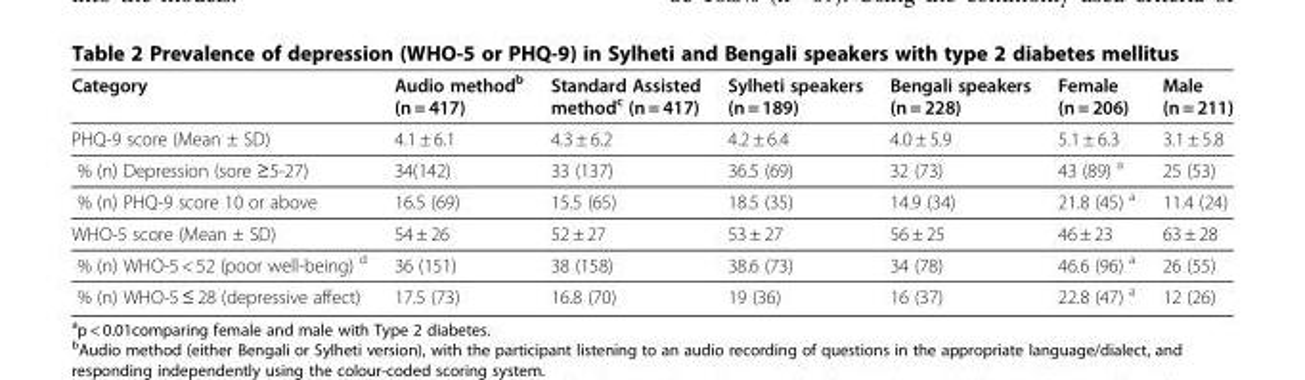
<table><thead><tr><td>Category</td><td>Audio method<sup>b</sup> (n = 417)</td><td>Standard Assisted method<sup>c</sup> (n = 417)</td><td>Sylheti speakers (n = 189)</td><td>Bengali speakers (n = 228)</td><td>Female (n = 206)</td><td>Male (n = 211)</td></tr></thead><tbody><tr><td>PHQ-9 score (Mean ± SD)</td><td>4.1 ± 6.1</td><td>4.3 ± 6.2</td><td>4.2 ± 6.4</td><td>4.0 ± 5.9</td><td>5.1 ± 6.3</td><td>3.1 ± 5.8</td></tr><tr><td>% (n) Depression (sore ≥5-27)</td><td>34(142)</td><td>33 (137)</td><td>36.5 (69)</td><td>32 (73)</td><td>43 (89) <sup>a</sup></td><td>25 (53)</td></tr><tr><td>% (n) PHQ-9 score 10 or above</td><td>16.5 (69)</td><td>15.5 (65)</td><td>18.5 (35)</td><td>14.9 (34)</td><td>21.8 (45) <sup>a</sup></td><td>11.4 (24)</td></tr><tr><td>WHO-5 score (Mean ± SD)</td><td>54 ± 26</td><td>52 ± 27</td><td>53 ± 27</td><td>56 ± 25</td><td>46 ± 23</td><td>63 ± 28</td></tr><tr><td>% (n) WHO-5 &lt; 52 (poor well-being) <sup>d</sup></td><td>36 (151)</td><td>38 (158)</td><td>38.6 (73)</td><td>34 (78)</td><td>46.6 (96) <sup>a</sup></td><td>26 (55)</td></tr><tr><td>% (n) WHO-5 ≤ 28 (depressive affect)</td><td>17.5 (73)</td><td>16.8 (70)</td><td>19 (36)</td><td>16 (37)</td><td>22.8 (47) <sup>a</sup></td><td>12 (26)</td></tr></tbody></table>